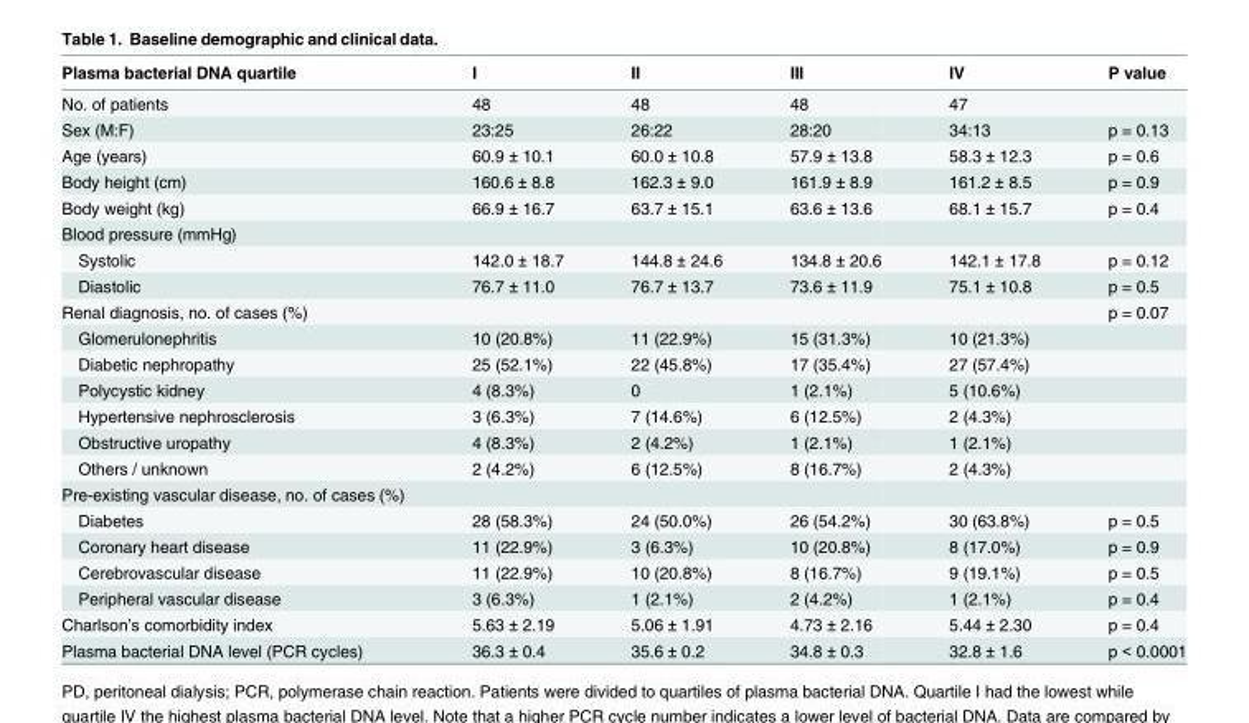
<table><thead><tr><td>Plasma bacterial DNA quartile</td><td>I</td><td>II</td><td>III</td><td>IV</td><td>P value</td></tr></thead><tbody><tr><td>No. of patients</td><td>48</td><td>48</td><td>48</td><td>47</td><td></td></tr><tr><td>Sex (M:F)</td><td>23:25</td><td>26:22</td><td>28:20</td><td>34:13</td><td>p = 0.13</td></tr><tr><td>Age (years)</td><td>60.9 ± 10.1</td><td>60.0 ± 10.8</td><td>57.9 ± 13.8</td><td>58.3 ± 12.3</td><td>p = 0.6</td></tr><tr><td>Body height (cm)</td><td>160.6 ± 8.8</td><td>162.3 ± 9.0</td><td>161.9 ± 8.9</td><td>161.2 ± 8.5</td><td>p = 0.9</td></tr><tr><td>Body weight (kg)</td><td>66.9 ± 16.7</td><td>63.7 ± 15.1</td><td>63.6 ± 13.6</td><td>68.1 ± 15.7</td><td>p = 0.4</td></tr><tr><td colspan="6">Blood pressure (mmHg)</td></tr><tr><td>Systolic</td><td>142.0 ± 18.7</td><td>144.8 ± 24.6</td><td>134.8 ± 20.6</td><td>142.1 ± 17.8</td><td>p = 0.12</td></tr><tr><td>Diastolic</td><td>76.7 ± 11.0</td><td>76.7 ± 13.7</td><td>73.6 ± 11.9</td><td>75.1 ± 10.8</td><td>p = 0.5</td></tr><tr><td>Renal diagnosis, no. of cases (%)</td><td></td><td></td><td></td><td></td><td>p = 0.07</td></tr><tr><td>Glomerulonephritis</td><td>10 (20.8%)</td><td>11 (22.9%)</td><td>15 (31.3%)</td><td>10 (21.3%)</td><td></td></tr><tr><td>Diabetic nephropathy</td><td>25 (52.1%)</td><td>22 (45.8%)</td><td>17 (35.4%)</td><td>27 (57.4%)</td><td></td></tr><tr><td>Polycystic kidney</td><td>4 (8.3%)</td><td>0</td><td>1 (2.1%)</td><td>5 (10.6%)</td><td></td></tr><tr><td>Hypertensive nephrosclerosis</td><td>3 (6.3%)</td><td>7 (14.6%)</td><td>6 (12.5%)</td><td>2 (4.3%)</td><td></td></tr><tr><td>Obstructive uropathy</td><td>4 (8.3%)</td><td>2 (4.2%)</td><td>1 (2.1%)</td><td>1 (2.1%)</td><td></td></tr><tr><td>Others / unknown</td><td>2 (4.2%)</td><td>6 (12.5%)</td><td>8 (16.7%)</td><td>2 (4.3%)</td><td></td></tr><tr><td colspan="6">Pre-existing vascular disease, no. of cases (%)</td></tr><tr><td>Diabetes</td><td>28 (58.3%)</td><td>24 (50.0%)</td><td>26 (54.2%)</td><td>30 (63.8%)</td><td>p = 0.5</td></tr><tr><td>Coronary heart disease</td><td>11 (22.9%)</td><td>3 (6.3%)</td><td>10 (20.8%)</td><td>8 (17.0%)</td><td>p = 0.9</td></tr><tr><td>Cerebrovascular disease</td><td>11 (22.9%)</td><td>10 (20.8%)</td><td>8 (16.7%)</td><td>9 (19.1%)</td><td>p = 0.5</td></tr><tr><td>Peripheral vascular disease</td><td>3 (6.3%)</td><td>1 (2.1%)</td><td>2 (4.2%)</td><td>1 (2.1%)</td><td>p = 0.4</td></tr><tr><td>Charlson’s comorbidity index</td><td>5.63 ± 2.19</td><td>5.06 ± 1.91</td><td>4.73 ± 2.16</td><td>5.44 ± 2.30</td><td>p = 0.4</td></tr><tr><td>Plasma bacterial DNA level (PCR cycles)</td><td>36.3 ± 0.4</td><td>35.6 ± 0.2</td><td>34.8 ± 0.3</td><td>32.8 ± 1.6</td><td>p &lt; 0.0001</td></tr></tbody></table>